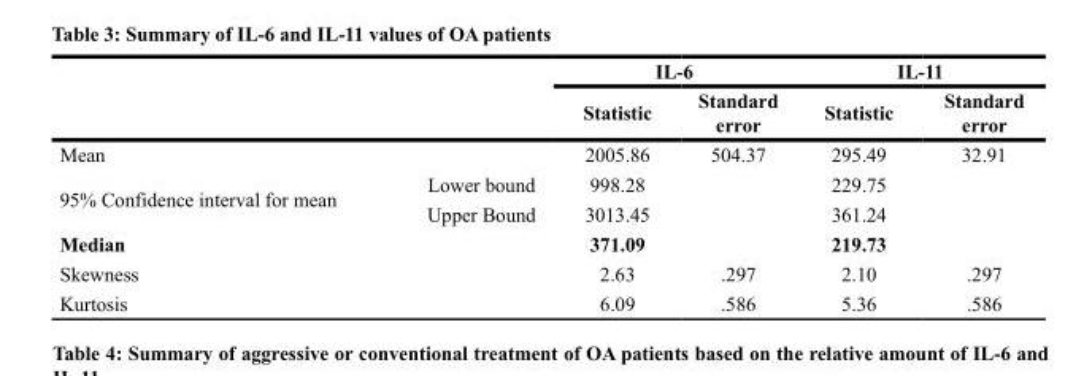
<table><thead><tr><td rowspan="2"></td><td rowspan="2"></td><td colspan="2">IL-6</td><td colspan="2">IL-11</td></tr><tr><td>Statistic</td><td>Standard error</td><td>Statistic</td><td>Standard error</td></tr></thead><tbody><tr><td colspan="2">Mean</td><td>2005.86</td><td>504.37</td><td>295.49</td><td>32.91</td></tr><tr><td rowspan="2">95% Confidence interval for mean</td><td>Lower bound</td><td>998.28</td><td></td><td>229.75</td><td></td></tr><tr><td>Upper Bound</td><td>3013.45</td><td></td><td>361.24</td><td></td></tr><tr><td colspan="2">Median</td><td>371.09</td><td></td><td>219.73</td><td></td></tr><tr><td colspan="2">Skewness</td><td>2.63</td><td>.297</td><td>2.10</td><td>.297</td></tr><tr><td colspan="2">Kurtosis</td><td>6.09</td><td>.586</td><td>5.36</td><td>.586</td></tr></tbody></table>